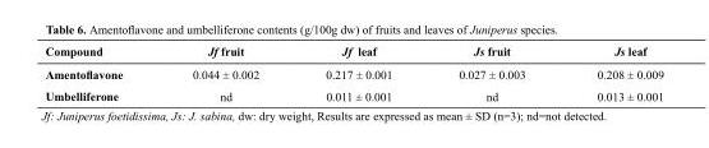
<table><thead><tr><td>Compound</td><td>Jf fruit</td><td>Jf leaf</td><td>Js fruit</td><td>Js leaf</td></tr></thead><tbody><tr><td>Amentoflavone</td><td>0.044 ± 0.002</td><td>0.217 ± 0.001</td><td>0.027 ± 0.003</td><td>0.208 ± 0.009</td></tr><tr><td>Umbelliferone</td><td>nd</td><td>0.011 ± 0.001</td><td>nd</td><td>0.013 ± 0.001</td></tr></tbody></table>